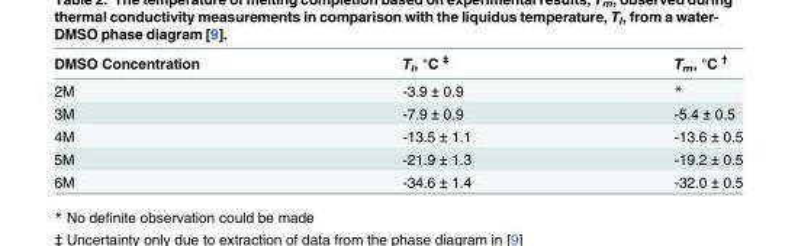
<table><thead><tr><td>DMSO Concentration</td><td>T<sub>l</sub>, °C <sup>‡</sup></td><td>T<sub>m</sub>, °C <sup>†</sup></td></tr></thead><tbody><tr><td>2M</td><td>-3.9 ± 0.9</td><td>*</td></tr><tr><td>3M</td><td>-7.9 ± 0.9</td><td>-5.4 ± 0.5</td></tr><tr><td>4M</td><td>-13.5 ± 1.1</td><td>-13.6 ± 0.5</td></tr><tr><td>5M</td><td>-21.9 ± 1.3</td><td>-19.2 ± 0.5</td></tr><tr><td>6M</td><td>-34.6 ± 1.4</td><td>-32.0 ± 0.5</td></tr></tbody></table>